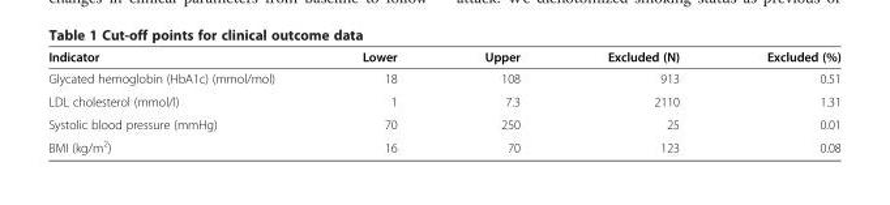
<table><thead><tr><td>Indicator</td><td>Lower</td><td>Upper</td><td>Excluded (N)</td><td>Excluded (%)</td></tr></thead><tbody><tr><td>Glycated hemoglobin (HbA1c) (mmol/mol)</td><td>18</td><td>108</td><td>913</td><td>0.51</td></tr><tr><td>LDL cholesterol (mmol/l)</td><td>1</td><td>7.3</td><td>2110</td><td>1.31</td></tr><tr><td>Systolic blood pressure (mmHg)</td><td>70</td><td>250</td><td>25</td><td>0.01</td></tr><tr><td>BMI (kg/m<sup>2</sup>)</td><td>16</td><td>70</td><td>123</td><td>0.08</td></tr></tbody></table>